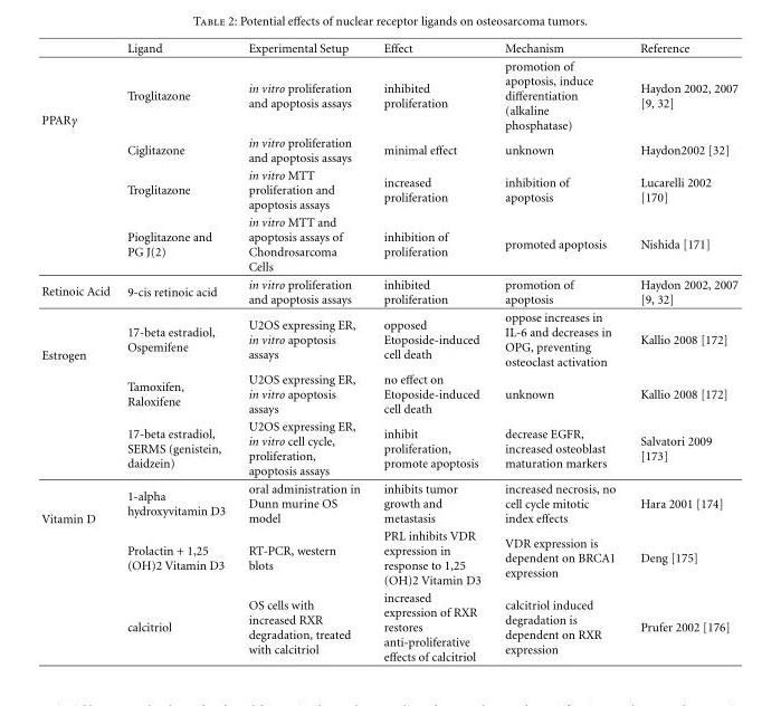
<table><thead><tr><td></td><td>Ligand</td><td>Experimental Setup</td><td>Effect</td><td>Mechanism</td><td>Reference</td></tr></thead><tbody><tr><td rowspan="4">PPARγ</td><td>Troglitazone</td><td>in vitro proliferation and apoptosis assays</td><td>inhibited proliferation</td><td>promotion of apoptosis, induce differentiation (alkaline phosphatase)</td><td>Haydon 2002, 2007 [9, 32]</td></tr><tr><td>Ciglitazone</td><td>in vitro proliferation and apoptosis assays</td><td>minimal effect</td><td>unknown</td><td>Haydon2002 [32]</td></tr><tr><td>Troglitazone</td><td>in vitro MTT proliferation and apoptosis assays</td><td>increased proliferation</td><td>inhibition of apoptosis</td><td>Lucarelli 2002 [170]</td></tr><tr><td>Pioglitazone and PG J(2)</td><td>in vitro MTT and apoptosis assays of Chondrosarcoma Cells</td><td>inhibition of proliferation</td><td>promoted apoptosis</td><td>Nishida [171]</td></tr><tr><td>Retinoic Acid</td><td>9-cis retinoic acid</td><td>in vitro proliferation and apoptosis assays</td><td>inhibited proliferation</td><td>promotion of apoptosis</td><td>Haydon 2002, 2007 [9, 32]</td></tr><tr><td rowspan="3">Estrogen</td><td>17-beta estradiol, Ospemifene</td><td>U2OS expressing ER, in vitro apoptosis assays</td><td>opposed Etoposide-induced cell death</td><td>oppose increases in IL-6 and decreases in OPG, preventing osteoclast activation</td><td>Kallio 2008 [172]</td></tr><tr><td>Tamoxifen, Raloxifene</td><td>U2OS expressing ER, in vitro apoptosis assays</td><td>no effect on Etoposide-induced cell death</td><td>unknown</td><td>Kallio 2008 [172]</td></tr><tr><td>17-beta estradiol, SERMS (genistein, daidzein)</td><td>U2OS expressing ER, in vitro cell cycle, proliferation, apoptosis assays</td><td>inhibit proliferation, promote apoptosis</td><td>decrease EGFR, increased osteoblast maturation markers</td><td>Salvatori 2009 [173]</td></tr><tr><td rowspan="3">Vitamin D</td><td>1-alpha hydroxyvitamin D3</td><td>oral administration in Dunn murine OS model</td><td>inhibits tumor growth and metastasis</td><td>increased necrosis, no cell cycle mitotic index effects</td><td>Hara 2001 [174]</td></tr><tr><td>Prolactin + 1,25 (OH)2 Vitamin D3</td><td>RT-PCR, western blots</td><td>PRL inhibits VDR expression in response to 1,25 (OH)2 Vitamin D3</td><td>VDR expression is dependent on BRCA1 expression</td><td>Deng [175]</td></tr><tr><td>calcitriol</td><td>OS cells with increased RXR degradation, treated with calcitriol</td><td>increased expression of RXR restores anti-proliferative effects of calcitriol</td><td>calcitriol induced degradation is dependent on RXR expression</td><td>Prufer 2002 [176]</td></tr></tbody></table>